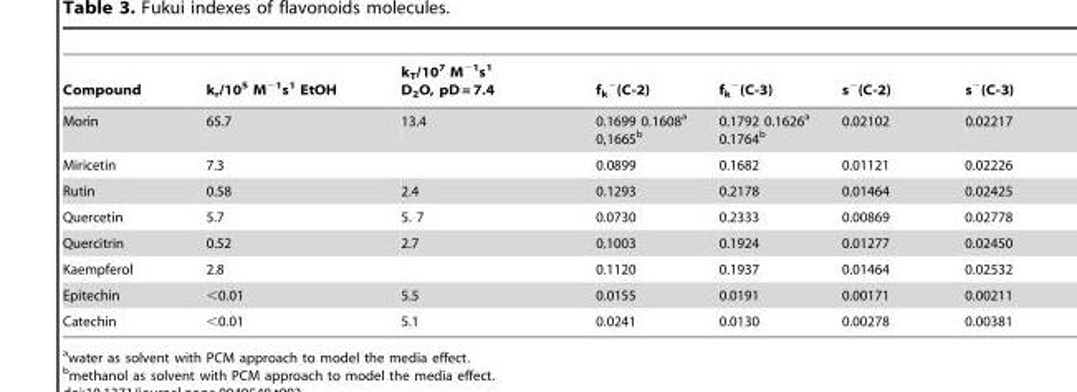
<table><thead><tr><td>Compound</td><td>k<sub>r</sub>/10<sup>5</sup> M<sup>−1</sup>s<sup>1</sup> EtOH</td><td>k<sub>T</sub>/10<sup>7</sup> M<sup>−1</sup>s<sup>1</sup> D<sub>2</sub>O, pD = 7.4</td><td>f<sub>k</sub> <sup>−</sup>(C-2)</td><td>f<sub>k</sub> <sup>−</sup>(C-3)</td><td>s<sup>−</sup>(C-2)</td><td>s<sup>−</sup>(C-3)</td></tr></thead><tbody><tr><td>Morin</td><td>65.7</td><td>13.4</td><td>0.1699 0.1608<sup>a</sup> 0,1665<sup>b</sup></td><td>0.1792 0.1626<sup>a</sup> 0.1764<sup>b</sup></td><td>0.02102</td><td>0.02217</td></tr><tr><td>Miricetin</td><td>7.3</td><td></td><td>0.0899</td><td>0.1682</td><td>0.01121</td><td>0.02226</td></tr><tr><td>Rutin</td><td>0.58</td><td>2.4</td><td>0.1293</td><td>0.2178</td><td>0.01464</td><td>0.02425</td></tr><tr><td>Quercetin</td><td>5.7</td><td>5. 7</td><td>0.0730</td><td>0.2333</td><td>0.00869</td><td>0.02778</td></tr><tr><td>Quercitrin</td><td>0.52</td><td>2.7</td><td>0.1003</td><td>0.1924</td><td>0.01277</td><td>0.02450</td></tr><tr><td>Kaempferol</td><td>2.8</td><td></td><td>0.1120</td><td>0.1937</td><td>0.01464</td><td>0.02532</td></tr><tr><td>Epitechin</td><td>&lt;0.01</td><td>5.5</td><td>0.0155</td><td>0.0191</td><td>0.00171</td><td>0.00211</td></tr><tr><td>Catechin</td><td>&lt;0.01</td><td>5.1</td><td>0.0241</td><td>0.0130</td><td>0.00278</td><td>0.00381</td></tr></tbody></table>